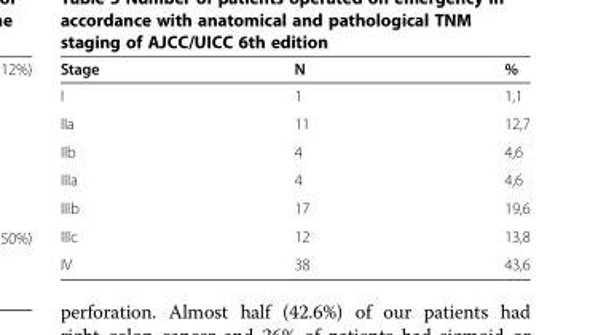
<table><thead><tr><td>Stage</td><td>N</td><td>%</td></tr></thead><tbody><tr><td>I</td><td>1</td><td>1,1</td></tr><tr><td>IIa</td><td>11</td><td>12,7</td></tr><tr><td>IIb</td><td>4</td><td>4,6</td></tr><tr><td>IIIa</td><td>4</td><td>4,6</td></tr><tr><td>IIIb</td><td>17</td><td>19,6</td></tr><tr><td>IIIc</td><td>12</td><td>13,8</td></tr><tr><td>IV</td><td>38</td><td>43,6</td></tr></tbody></table>